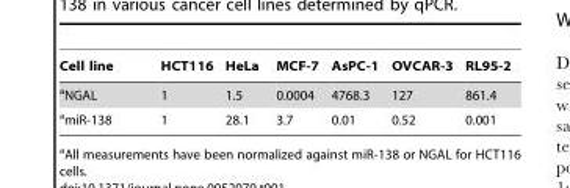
<table><thead><tr><td>Cell line</td><td>HCT116</td><td>HeLa</td><td>MCF-7</td><td>AsPC-1</td><td>OVCAR-3</td><td>RL95-2</td></tr></thead><tbody><tr><td>aNGAL</td><td>1</td><td>1.5</td><td>0.0004</td><td>4768.3</td><td>127</td><td>861.4</td></tr><tr><td>amiR-138</td><td>1</td><td>28.1</td><td>3.7</td><td>0.01</td><td>0.52</td><td>0.001</td></tr></tbody></table>